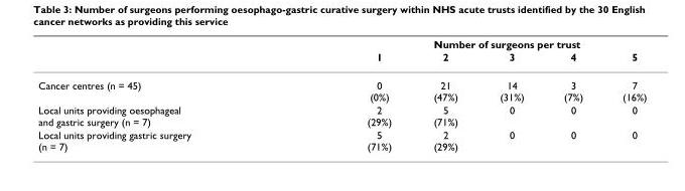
<table><thead><tr><td rowspan="2"></td><td colspan="5">Number of surgeons per trust</td></tr><tr><td>1</td><td>2</td><td>3</td><td>4</td><td>5</td></tr></thead><tbody><tr><td>Cancer centres (n = 45)</td><td>0 (0%)</td><td>21 (47%)</td><td>14 (31%)</td><td>3 (7%)</td><td>7 (16%)</td></tr><tr><td>Local units providing oesophageal and gastric surgery (n = 7)</td><td>2 (29%)</td><td>5 (71%)</td><td>0</td><td>0</td><td>0</td></tr><tr><td>Local units providing gastric surgery (n = 7)</td><td>5 (71%)</td><td>2 (29%)</td><td>0</td><td>0</td><td>0</td></tr></tbody></table>